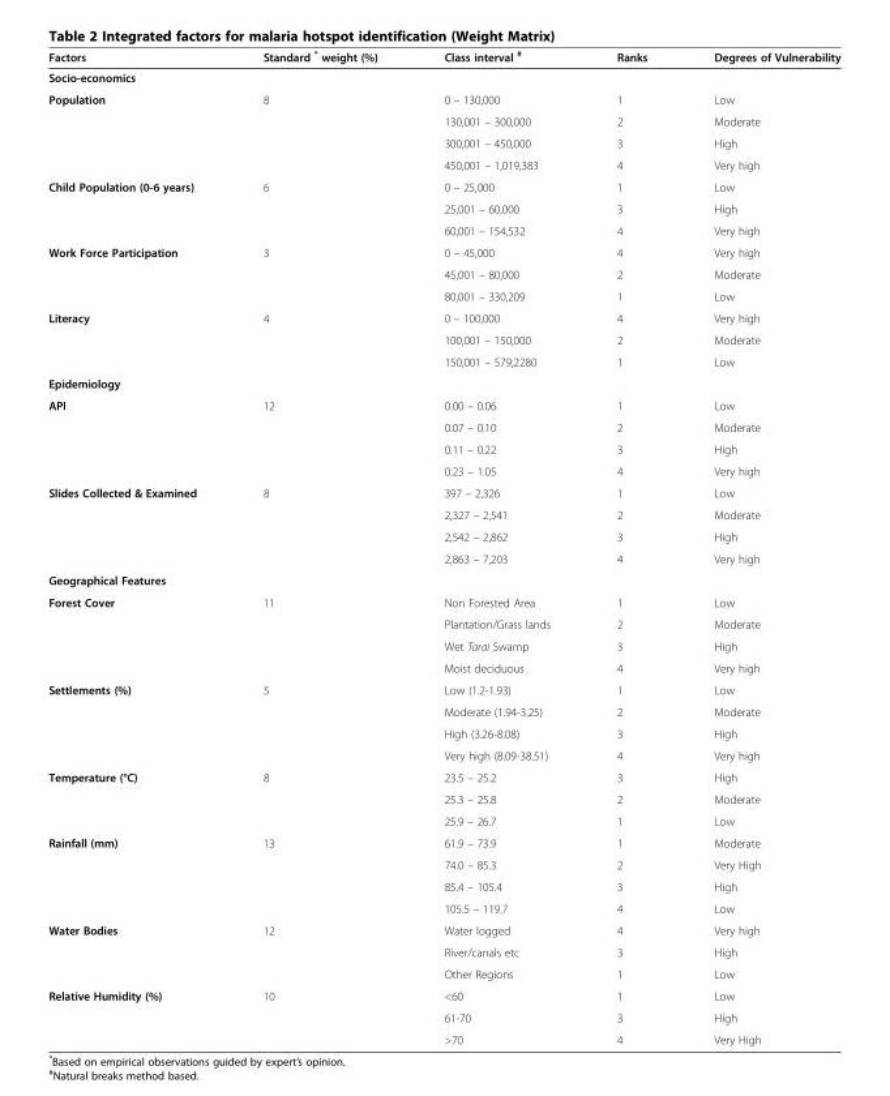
<table><thead><tr><td>Factors</td><td>Standard * weight (%)</td><td>Class interval <sup>#</sup></td><td>Ranks</td><td>Degrees of Vulnerability</td></tr></thead><tbody><tr><td colspan="5">Socio-economics</td></tr><tr><td rowspan="4">Population</td><td rowspan="4">8</td><td>0 – 130,000</td><td>1</td><td>Low</td></tr><tr><td>130,001 – 300,000</td><td>2</td><td>Moderate</td></tr><tr><td>300,001 – 450,000</td><td>3</td><td>High</td></tr><tr><td>450,001 – 1,019,383</td><td>4</td><td>Very high</td></tr><tr><td rowspan="3">Child Population (0-6 years)</td><td rowspan="3">6</td><td>0 – 25,000</td><td>1</td><td>Low</td></tr><tr><td>25,001 – 60,000</td><td>3</td><td>High</td></tr><tr><td>60,001 – 154,532</td><td>4</td><td>Very high</td></tr><tr><td rowspan="3">Work Force Participation</td><td rowspan="3">3</td><td>0 – 45,000</td><td>4</td><td>Very high</td></tr><tr><td>45,001 – 80,000</td><td>2</td><td>Moderate</td></tr><tr><td>80,001 – 330,209</td><td>1</td><td>Low</td></tr><tr><td rowspan="3">Literacy</td><td rowspan="3">4</td><td>0 – 100,000</td><td>4</td><td>Very high</td></tr><tr><td>100,001 – 150,000</td><td>2</td><td>Moderate</td></tr><tr><td>150,001 – 579,2280</td><td>1</td><td>Low</td></tr><tr><td colspan="5">Epidemiology</td></tr><tr><td rowspan="4">API</td><td rowspan="4">12</td><td>0.00 – 0.06</td><td>1</td><td>Low</td></tr><tr><td>0.07 – 0.10</td><td>2</td><td>Moderate</td></tr><tr><td>0.11 – 0.22</td><td>3</td><td>High</td></tr><tr><td>0.23 – 1.05</td><td>4</td><td>Very high</td></tr><tr><td rowspan="4">Slides Collected &amp; Examined</td><td rowspan="4">8</td><td>397 – 2,326</td><td>1</td><td>Low</td></tr><tr><td>2,327 – 2,541</td><td>2</td><td>Moderate</td></tr><tr><td>2,542 – 2,862</td><td>3</td><td>High</td></tr><tr><td>2,863 – 7,203</td><td>4</td><td>Very high</td></tr><tr><td colspan="5">Geographical Features</td></tr><tr><td rowspan="4">Forest Cover</td><td rowspan="4">11</td><td>Non Forested Area</td><td>1</td><td>Low</td></tr><tr><td>Plantation/Grass lands</td><td>2</td><td>Moderate</td></tr><tr><td>Wet Tarai Swamp</td><td>3</td><td>High</td></tr><tr><td>Moist deciduous</td><td>4</td><td>Very high</td></tr><tr><td rowspan="4">Settlements (%)</td><td rowspan="4">5</td><td>Low (1.2-1.93)</td><td>1</td><td>Low</td></tr><tr><td>Moderate (1.94-3.25)</td><td>2</td><td>Moderate</td></tr><tr><td>High (3.26-8.08)</td><td>3</td><td>High</td></tr><tr><td>Very high (8.09-38.51)</td><td>4</td><td>Very high</td></tr><tr><td rowspan="3">Temperature (°C)</td><td rowspan="3">8</td><td>23.5 – 25.2</td><td>3</td><td>High</td></tr><tr><td>25.3 – 25.8</td><td>2</td><td>Moderate</td></tr><tr><td>25.9 – 26.7</td><td>1</td><td>Low</td></tr><tr><td rowspan="4">Rainfall (mm)</td><td rowspan="4">13</td><td>61.9 – 73.9</td><td>1</td><td>Moderate</td></tr><tr><td>74.0 – 85.3</td><td>2</td><td>Very High</td></tr><tr><td>85.4 – 105.4</td><td>3</td><td>High</td></tr><tr><td>105.5 – 119.7</td><td>4</td><td>Low</td></tr><tr><td rowspan="3">Water Bodies</td><td rowspan="3">12</td><td>Water logged</td><td>4</td><td>Very high</td></tr><tr><td>River/canals etc</td><td>3</td><td>High</td></tr><tr><td>Other Regions</td><td>1</td><td>Low</td></tr><tr><td rowspan="3">Relative Humidity (%)</td><td rowspan="3">10</td><td>&lt;60</td><td>1</td><td>Low</td></tr><tr><td>61-70</td><td>3</td><td>High</td></tr><tr><td>&gt;70</td><td>4</td><td>Very High</td></tr></tbody></table>